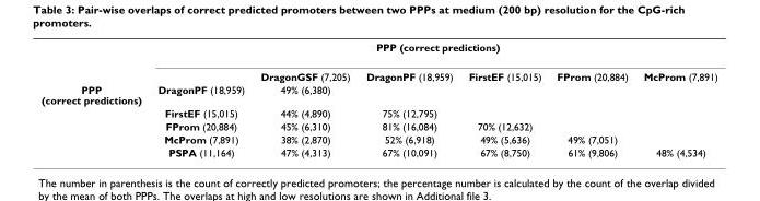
<table><thead><tr><td rowspan="2"></td><td colspan="6">PPP (correct predictions)</td></tr><tr><td></td><td>DragonGSF (7,205)</td><td>DragonPF (18,959)</td><td>FirstEF (15,015)</td><td>FProm (20,884)</td><td>McProm (7,891)</td></tr></thead><tbody><tr><td rowspan="5">PPP (correct predictions)</td><td>DragonPF (18,959)</td><td>49% (6,380)</td><td></td><td></td><td></td><td></td></tr><tr><td>FirstEF (15,015)</td><td>44% (4,890)</td><td>75% (12,795)</td><td></td><td></td><td></td></tr><tr><td>FProm (20,884)</td><td>45% (6,310)</td><td>81% (16,084)</td><td>70% (12,632)</td><td></td><td></td></tr><tr><td>McProm (7,891)</td><td>38% (2,870)</td><td>52% (6,918)</td><td>49% (5,636)</td><td>49% (7,051)</td><td></td></tr><tr><td>PSPA (11,164)</td><td>47% (4,313)</td><td>67% (10,091)</td><td>67% (8,750)</td><td>61% (9,806)</td><td>48% (4,534)</td></tr></tbody></table>